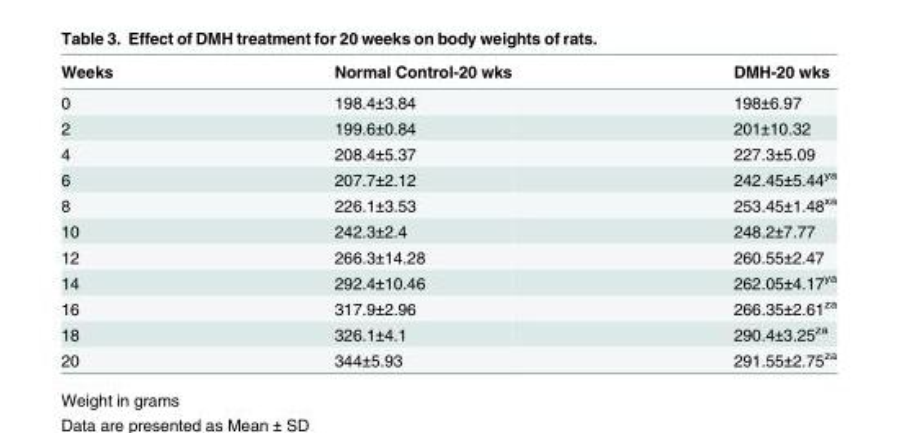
<table><thead><tr><td>Weeks</td><td>Normal Control-20 wks</td><td>DMH-20 wks</td></tr></thead><tbody><tr><td>0</td><td>198.4±3.84</td><td>198±6.97</td></tr><tr><td>2</td><td>199.6±0.84</td><td>201±10.32</td></tr><tr><td>4</td><td>208.4±5.37</td><td>227.3±5.09</td></tr><tr><td>6</td><td>207.7±2.12</td><td>242.45±5.44<sup>ya</sup></td></tr><tr><td>8</td><td>226.1±3.53</td><td>253.45±1.48<sup>xa</sup></td></tr><tr><td>10</td><td>242.3±2.4</td><td>248.2±7.77</td></tr><tr><td>12</td><td>266.3±14.28</td><td>260.55±2.47</td></tr><tr><td>14</td><td>292.4±10.46</td><td>262.05±4.17<sup>ya</sup></td></tr><tr><td>16</td><td>317.9±2.96</td><td>266.35±2.61<sup>za</sup></td></tr><tr><td>18</td><td>326.1±4.1</td><td>290.4±3.25<sup>za</sup></td></tr><tr><td>20</td><td>344±5.93</td><td>291.55±2.75<sup>za</sup></td></tr></tbody></table>